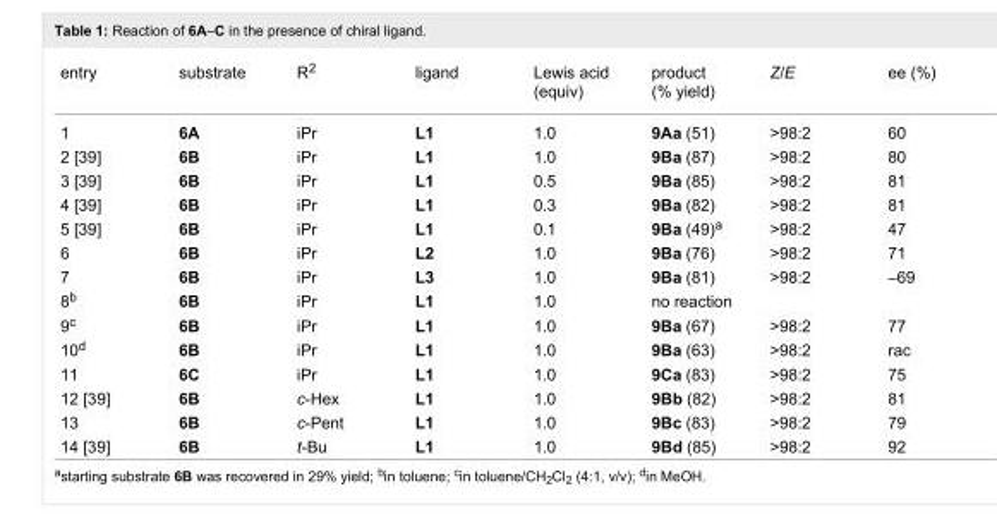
<table><tbody><tr><td>entry</td><td>substrate</td><td>R<sup>2</sup></td><td>ligand</td><td>Lewis acid (equiv)</td><td>product (% yield)</td><td>Z/E</td><td>ee (%)</td></tr><tr><td>1</td><td>6A</td><td>iPr</td><td>L1</td><td>1.0</td><td>9Aa (51)</td><td>&gt;98:2</td><td>60</td></tr><tr><td>2 [39]</td><td>6B</td><td>iPr</td><td>L1</td><td>1.0</td><td>9Ba (87)</td><td>&gt;98:2</td><td>80</td></tr><tr><td>3 [39]</td><td>6B</td><td>iPr</td><td>L1</td><td>0.5</td><td>9Ba (85)</td><td>&gt;98:2</td><td>81</td></tr><tr><td>4 [39]</td><td>6B</td><td>iPr</td><td>L1</td><td>0.3</td><td>9Ba (82)</td><td>&gt;98:2</td><td>81</td></tr><tr><td>5 [39]</td><td>6B</td><td>iPr</td><td>L1</td><td>0.1</td><td>9Ba (49)<sup>a</sup></td><td>&gt;98:2</td><td>47</td></tr><tr><td>6</td><td>6B</td><td>iPr</td><td>L2</td><td>1.0</td><td>9Ba (76)</td><td>&gt;98:2</td><td>71</td></tr><tr><td>7</td><td>6B</td><td>iPr</td><td>L3</td><td>1.0</td><td>9Ba (81)</td><td>&gt;98:2</td><td>–69</td></tr><tr><td>8<sup>b</sup></td><td>6B</td><td>iPr</td><td>L1</td><td>1.0</td><td>no reaction</td><td></td><td></td></tr><tr><td>9<sup>c</sup></td><td>6B</td><td>iPr</td><td>L1</td><td>1.0</td><td>9Ba (67)</td><td>&gt;98:2</td><td>77</td></tr><tr><td>10<sup>d</sup></td><td>6B</td><td>iPr</td><td>L1</td><td>1.0</td><td>9Ba (63)</td><td>&gt;98:2</td><td>rac</td></tr><tr><td>11</td><td>6C</td><td>iPr</td><td>L1</td><td>1.0</td><td>9Ca (83)</td><td>&gt;98:2</td><td>75</td></tr><tr><td>12 [39]</td><td>6B</td><td>c-Hex</td><td>L1</td><td>1.0</td><td>9Bb (82)</td><td>&gt;98:2</td><td>81</td></tr><tr><td>13</td><td>6B</td><td>c-Pent</td><td>L1</td><td>1.0</td><td>9Bc (83)</td><td>&gt;98:2</td><td>79</td></tr><tr><td>14 [39]</td><td>6B</td><td>t-Bu</td><td>L1</td><td>1.0</td><td>9Bd (85)</td><td>&gt;98:2</td><td>92</td></tr></tbody></table>